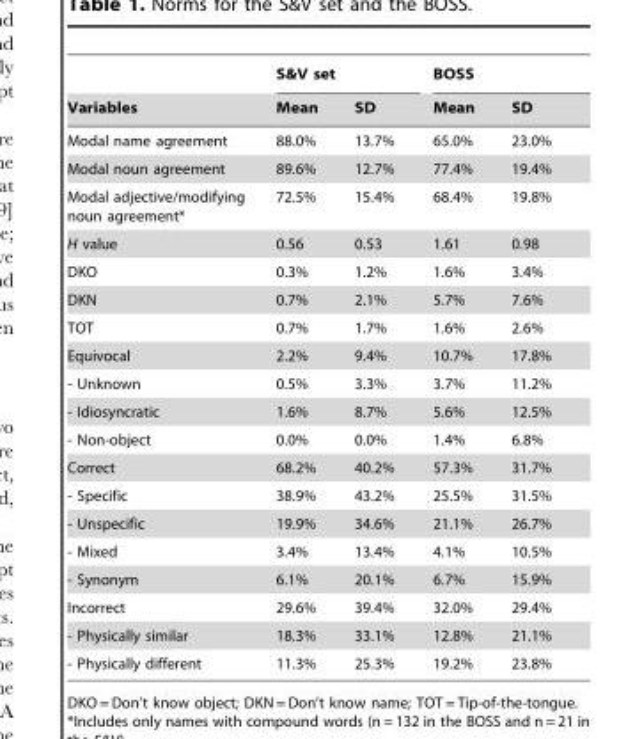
<table><thead><tr><td rowspan="2">Variables</td><td colspan="2">S&amp;V set</td><td colspan="2">BOSS</td></tr><tr><td>Mean</td><td>SD</td><td>Mean</td><td>SD</td></tr></thead><tbody><tr><td>Modal name agreement</td><td>88.0%</td><td>13.7%</td><td>65.0%</td><td>23.0%</td></tr><tr><td>Modal noun agreement</td><td>89.6%</td><td>12.7%</td><td>77.4%</td><td>19.4%</td></tr><tr><td>Modal adjective/modifying noun agreement*</td><td>72.5%</td><td>15.4%</td><td>68.4%</td><td>19.8%</td></tr><tr><td>H value</td><td>0.56</td><td>0.53</td><td>1.61</td><td>0.98</td></tr><tr><td>DKO</td><td>0.3%</td><td>1.2%</td><td>1.6%</td><td>3.4%</td></tr><tr><td>DKN</td><td>0.7%</td><td>2.1%</td><td>5.7%</td><td>7.6%</td></tr><tr><td>TOT</td><td>0.7%</td><td>1.7%</td><td>1.6%</td><td>2.6%</td></tr><tr><td>Equivocal</td><td>2.2%</td><td>9.4%</td><td>10.7%</td><td>17.8%</td></tr><tr><td>- Unknown</td><td>0.5%</td><td>3.3%</td><td>3.7%</td><td>11.2%</td></tr><tr><td>- Idiosyncratic</td><td>1.6%</td><td>8.7%</td><td>5.6%</td><td>12.5%</td></tr><tr><td>- Non-object</td><td>0.0%</td><td>0.0%</td><td>1.4%</td><td>6.8%</td></tr><tr><td>Correct</td><td>68.2%</td><td>40.2%</td><td>57.3%</td><td>31.7%</td></tr><tr><td>- Specific</td><td>38.9%</td><td>43.2%</td><td>25.5%</td><td>31.5%</td></tr><tr><td>- Unspecific</td><td>19.9%</td><td>34.6%</td><td>21.1%</td><td>26.7%</td></tr><tr><td>- Mixed</td><td>3.4%</td><td>13.4%</td><td>4.1%</td><td>10.5%</td></tr><tr><td>- Synonym</td><td>6.1%</td><td>20.1%</td><td>6.7%</td><td>15.9%</td></tr><tr><td>Incorrect</td><td>29.6%</td><td>39.4%</td><td>32.0%</td><td>29.4%</td></tr><tr><td>- Physically similar</td><td>18.3%</td><td>33.1%</td><td>12.8%</td><td>21.1%</td></tr><tr><td>- Physically different</td><td>11.3%</td><td>25.3%</td><td>19.2%</td><td>23.8%</td></tr></tbody></table>